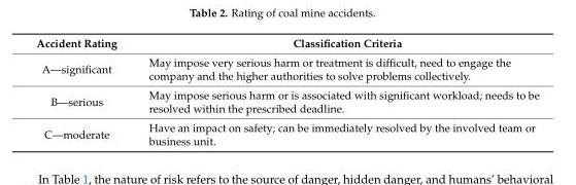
<table><thead><tr><td>Accident Rating</td><td>Classification Criteria</td></tr></thead><tbody><tr><td>A—significant</td><td>May impose very serious harm or treatment is difficult, need to engage the company and the higher authorities to solve problems collectively.</td></tr><tr><td>B—serious</td><td>May impose serious harm or is associated with significant workload; needs to be resolved within the prescribed deadline.</td></tr><tr><td>C—moderate</td><td>Have an impact on safety; can be immediately resolved by the involved team or business unit.</td></tr></tbody></table>